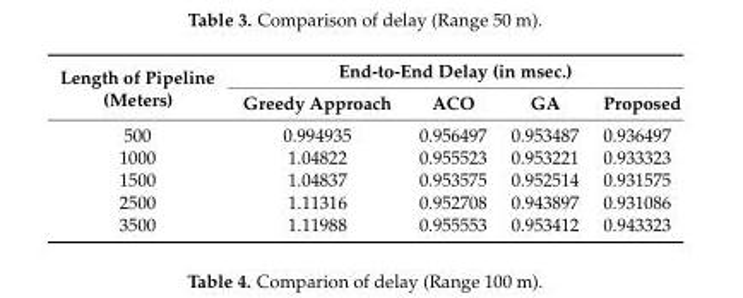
<table><thead><tr><td rowspan="2">Length of Pipeline (Meters)</td><td colspan="4">End-to-End Delay (in msec.)</td></tr><tr><td>Greedy Approach</td><td>ACO</td><td>GA</td><td>Proposed</td></tr></thead><tbody><tr><td>500</td><td>0.994935</td><td>0.956497</td><td>0.953487</td><td>0.936497</td></tr><tr><td>1000</td><td>1.04822</td><td>0.955523</td><td>0.953221</td><td>0.933323</td></tr><tr><td>1500</td><td>1.04837</td><td>0.953575</td><td>0.952514</td><td>0.931575</td></tr><tr><td>2500</td><td>1.11316</td><td>0.952708</td><td>0.943897</td><td>0.931086</td></tr><tr><td>3500</td><td>1.11988</td><td>0.955553</td><td>0.953412</td><td>0.943323</td></tr></tbody></table>